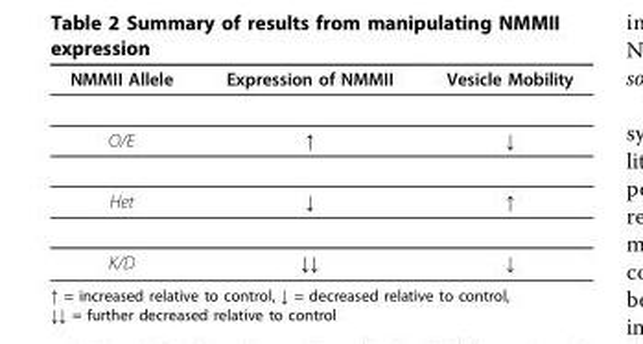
<table><thead><tr><td>NMMII Allele</td><td>Expression of NMMII</td><td>Vesicle Mobility</td></tr></thead><tbody><tr><td>O/E</td><td>↑</td><td>↓</td></tr><tr><td>Het</td><td>↓</td><td>↑</td></tr><tr><td>K/D</td><td>↓↓</td><td>↓</td></tr></tbody></table>